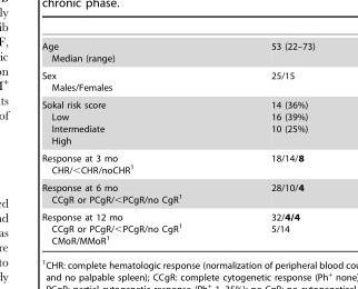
<table><tbody><tr><td>Age Median (range)</td><td>53 (22–73)</td></tr><tr><td>Sex Males/Females</td><td>25/15</td></tr><tr><td>Sokal risk score Low Intermediate High</td><td>14 (36%) 16 (39%) 10 (25%)</td></tr><tr><td>Response at 3 mo CHR/&lt;CHR/noCHR<sup>1</sup></td><td>18/14/8</td></tr><tr><td>Response at 6 mo CCgR or PCgR/&lt;PCgR/no CgR<sup>1</sup></td><td>28/10/4</td></tr><tr><td>Response at 12 mo CCgR or PCgR/&lt;PCgR/no CgR<sup>1</sup> CMoR/MMoR<sup>1</sup></td><td>32/4/4 5/14</td></tr></tbody></table>